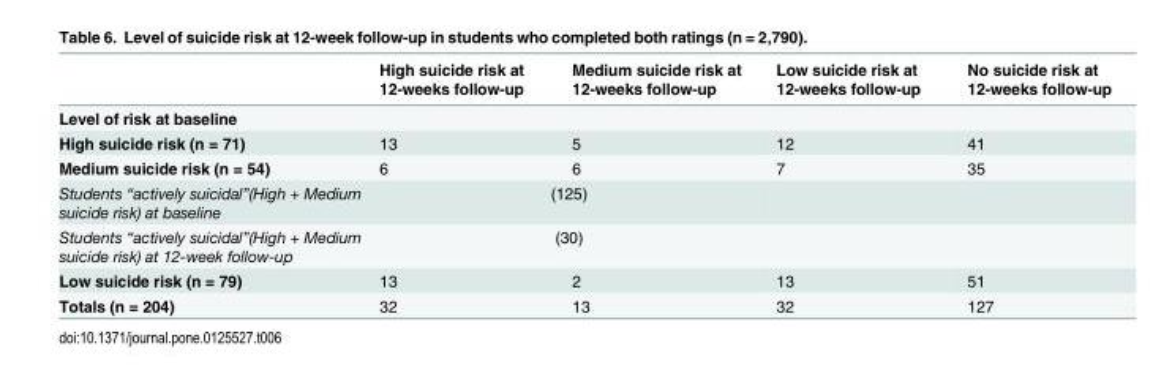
<table><thead><tr><td></td><td>High suicide risk at 12-weeks follow-up</td><td>Medium suicide risk at 12-weeks follow-up</td><td>Low suicide risk at 12-weeks follow-up</td><td>No suicide risk at 12-weeks follow-up</td></tr></thead><tbody><tr><td colspan="5">Level of risk at baseline</td></tr><tr><td>High suicide risk (n = 71)</td><td>13</td><td>5</td><td>12</td><td>41</td></tr><tr><td>Medium suicide risk (n = 54)</td><td>6</td><td>6</td><td>7</td><td>35</td></tr><tr><td>Students “actively suicidal”(High + Medium suicide risk) at baseline</td><td colspan="2">(125)</td><td colspan="2"></td></tr><tr><td>Students “actively suicidal”(High + Medium suicide risk) at 12-week follow-up</td><td colspan="2">(30)</td><td colspan="2"></td></tr><tr><td>Low suicide risk (n = 79)</td><td>13</td><td>2</td><td>13</td><td>51</td></tr><tr><td>Totals (n = 204)</td><td>32</td><td>13</td><td>32</td><td>127</td></tr></tbody></table>